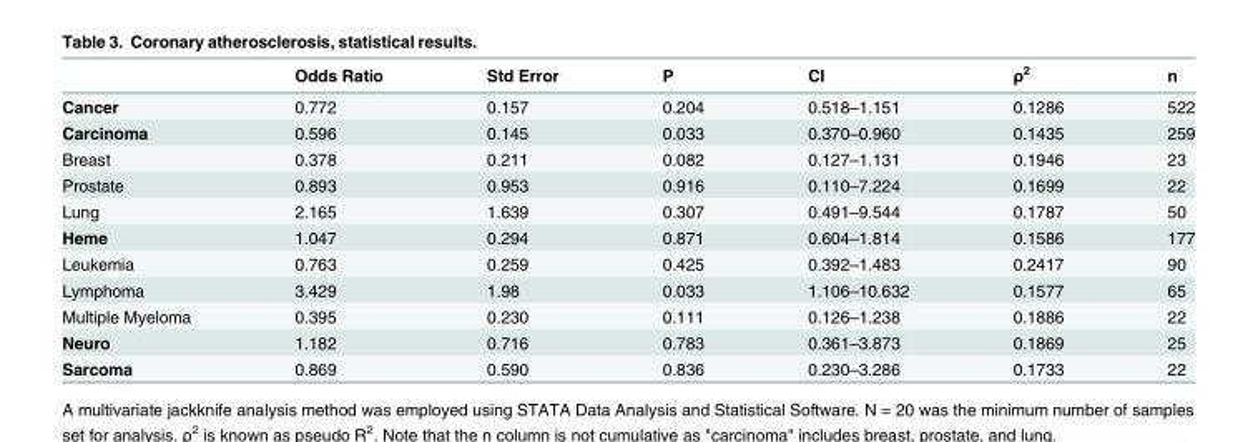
<table><thead><tr><td></td><td>Odds Ratio</td><td>Std Error</td><td>P</td><td>CI</td><td>ρ<sup>2</sup></td><td>n</td></tr></thead><tbody><tr><td>Cancer</td><td>0.772</td><td>0.157</td><td>0.204</td><td>0.518–1.151</td><td>0.1286</td><td>522</td></tr><tr><td>Carcinoma</td><td>0.596</td><td>0.145</td><td>0.033</td><td>0.370–0.960</td><td>0.1435</td><td>259</td></tr><tr><td>Breast</td><td>0.378</td><td>0.211</td><td>0.082</td><td>0.127–1.131</td><td>0.1946</td><td>23</td></tr><tr><td>Prostate</td><td>0.893</td><td>0.953</td><td>0.916</td><td>0.110–7.224</td><td>0.1699</td><td>22</td></tr><tr><td>Lung</td><td>2.165</td><td>1.639</td><td>0.307</td><td>0.491–9.544</td><td>0.1787</td><td>50</td></tr><tr><td>Heme</td><td>1.047</td><td>0.294</td><td>0.871</td><td>0.604–1.814</td><td>0.1586</td><td>177</td></tr><tr><td>Leukemia</td><td>0.763</td><td>0.259</td><td>0.425</td><td>0.392–1.483</td><td>0.2417</td><td>90</td></tr><tr><td>Lymphoma</td><td>3.429</td><td>1.98</td><td>0.033</td><td>1.106–10.632</td><td>0.1577</td><td>65</td></tr><tr><td>Multiple Myeloma</td><td>0.395</td><td>0.230</td><td>0.111</td><td>0.126–1.238</td><td>0.1886</td><td>22</td></tr><tr><td>Neuro</td><td>1.182</td><td>0.716</td><td>0.783</td><td>0.361–3.873</td><td>0.1869</td><td>25</td></tr><tr><td>Sarcoma</td><td>0.869</td><td>0.590</td><td>0.836</td><td>0.230–3.286</td><td>0.1733</td><td>22</td></tr></tbody></table>